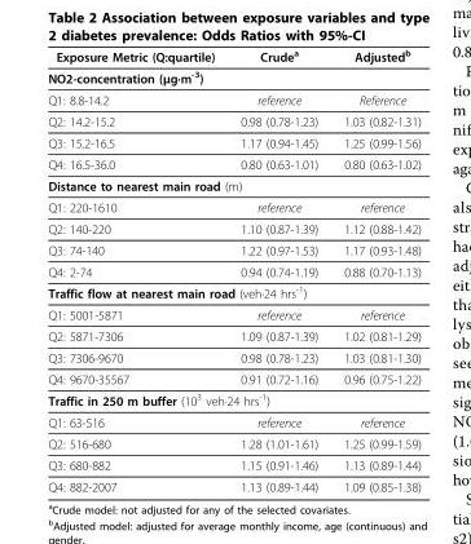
<table><thead><tr><td>Exposure Metric (Q:quartile)</td><td>Crude<sup>a</sup></td><td>Adjusted<sup>b</sup></td></tr></thead><tbody><tr><td colspan="3">NO2-concentration (µg·m<sup>-3</sup>)</td></tr><tr><td>Q1: 8.8-14.2</td><td>reference</td><td>Reference</td></tr><tr><td>Q2: 14.2-15.2</td><td>0.98 (0.78-1.23)</td><td>1.03 (0.82-1.31)</td></tr><tr><td>Q3: 15.2-16.5</td><td>1.17 (0.94-1.45)</td><td>1.25 (0.99-1.56)</td></tr><tr><td>Q4: 16.5-36.0</td><td>0.80 (0.63-1.01)</td><td>0.80 (0.63-1.02)</td></tr><tr><td colspan="3">Distance to nearest main road (m)</td></tr><tr><td>Q1: 220-1610</td><td>reference</td><td>reference</td></tr><tr><td>Q2: 140-220</td><td>1.10 (0.87-1.39)</td><td>1.12 (0.88-1.42)</td></tr><tr><td>Q3: 74-140</td><td>1.22 (0.97-1.53)</td><td>1.17 (0.93-1.48)</td></tr><tr><td>Q4: 2-74</td><td>0.94 (0.74-1.19)</td><td>0.88 (0.70-1.13)</td></tr><tr><td colspan="3">Traffic flow at nearest main road (veh·24 hrs<sup>-1</sup>)</td></tr><tr><td>Q1: 5001-5871</td><td>reference</td><td>reference</td></tr><tr><td>Q2: 5871-7306</td><td>1.09 (0.87-1.39)</td><td>1.02 (0.81-1.29)</td></tr><tr><td>Q3: 7306-9670</td><td>0.98 (0.78-1.23)</td><td>1.03 (0.81-1.30)</td></tr><tr><td>Q4: 9670-35567</td><td>0.91 (0.72-1.16)</td><td>0.96 (0.75-1.22)</td></tr><tr><td colspan="3">Traffic in 250 m buffer (10<sup>3</sup> veh·24 hrs<sup>-1</sup>)</td></tr><tr><td>Q1: 63-516</td><td>reference</td><td>reference</td></tr><tr><td>Q2: 516-680</td><td>1.28 (1.01-1.61)</td><td>1.25 (0.99-1.59)</td></tr><tr><td>Q3: 680-882</td><td>1.15 (0.91-1.46)</td><td>1.13 (0.89-1.44)</td></tr><tr><td>Q4: 882-2007</td><td>1.13 (0.89-1.44)</td><td>1.09 (0.85-1.38)</td></tr></tbody></table>